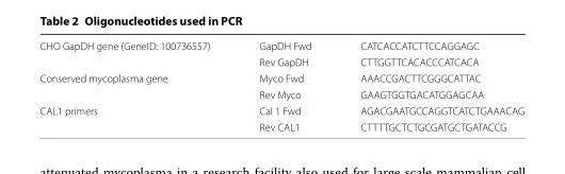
<table><tbody><tr><td rowspan="2">CHO GapDH gene (GeneID: 100736557)</td><td>GapDH Fwd</td><td>CATCACCATCTTCCAGGAGC</td></tr><tr><td>Rev GapDH</td><td>CTTGGTTCACACCCATCACA</td></tr><tr><td rowspan="2">Conserved mycoplasma gene</td><td>Myco Fwd</td><td>AAACCGACTTCGGGCATTAC</td></tr><tr><td>Rev Myco</td><td>GAAGTGGTGACATGGAGCAA</td></tr><tr><td rowspan="2">CAL1 primers</td><td>Cal 1 Fwd</td><td>AGACGAATGCCAGGTCATCTGAAACAG</td></tr><tr><td>Rev CAL1</td><td>CTTTTGCTCTGCGATGCTGATACCG</td></tr></tbody></table>